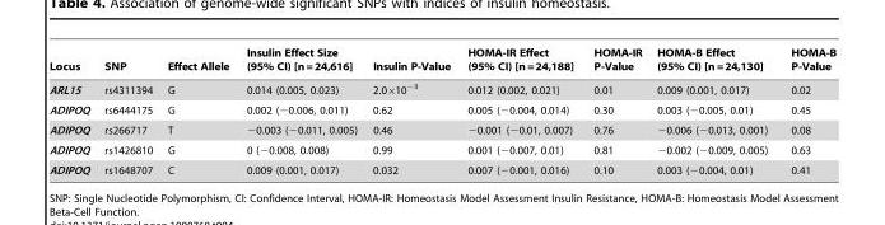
<table><thead><tr><td>Locus</td><td>SNP</td><td>Effect Allele</td><td>Insulin Effect Size (95% CI) [n=24,616]</td><td>Insulin P-Value</td><td>HOMA-IR Effect (95% CI) [n=24,188]</td><td>HOMA-IR P-Value</td><td>HOMA-B Effect (95% CI) [n=24,130]</td><td>HOMA-B P-Value</td></tr></thead><tbody><tr><td>ARL15</td><td>rs4311394</td><td>G</td><td>0.014 (0.005, 0.023)</td><td>2.0×10<sup>−3</sup></td><td>0.012 (0.002, 0.021)</td><td>0.01</td><td>0.009 (0.001, 0.017)</td><td>0.02</td></tr><tr><td>ADIPOQ</td><td>rs6444175</td><td>G</td><td>0.002 (−0.006, 0.011)</td><td>0.62</td><td>0.005 (−0.004, 0.014)</td><td>0.30</td><td>0.003 (−0.005, 0.01)</td><td>0.45</td></tr><tr><td>ADIPOQ</td><td>rs266717</td><td>T</td><td>−0.003 (−0.011, 0.005)</td><td>0.46</td><td>−0.001 (−0.01, 0.007)</td><td>0.76</td><td>−0.006 (−0.013, 0.001)</td><td>0.08</td></tr><tr><td>ADIPOQ</td><td>rs1426810</td><td>G</td><td>0 (−0.008, 0.008)</td><td>0.99</td><td>0.001 (−0.007, 0.01)</td><td>0.81</td><td>−0.002 (−0.009, 0.005)</td><td>0.63</td></tr><tr><td>ADIPOQ</td><td>rs1648707</td><td>C</td><td>0.009 (0.001, 0.017)</td><td>0.032</td><td>0.007 (−0.001, 0.016)</td><td>0.10</td><td>0.003 (−0.004, 0.01)</td><td>0.41</td></tr></tbody></table>